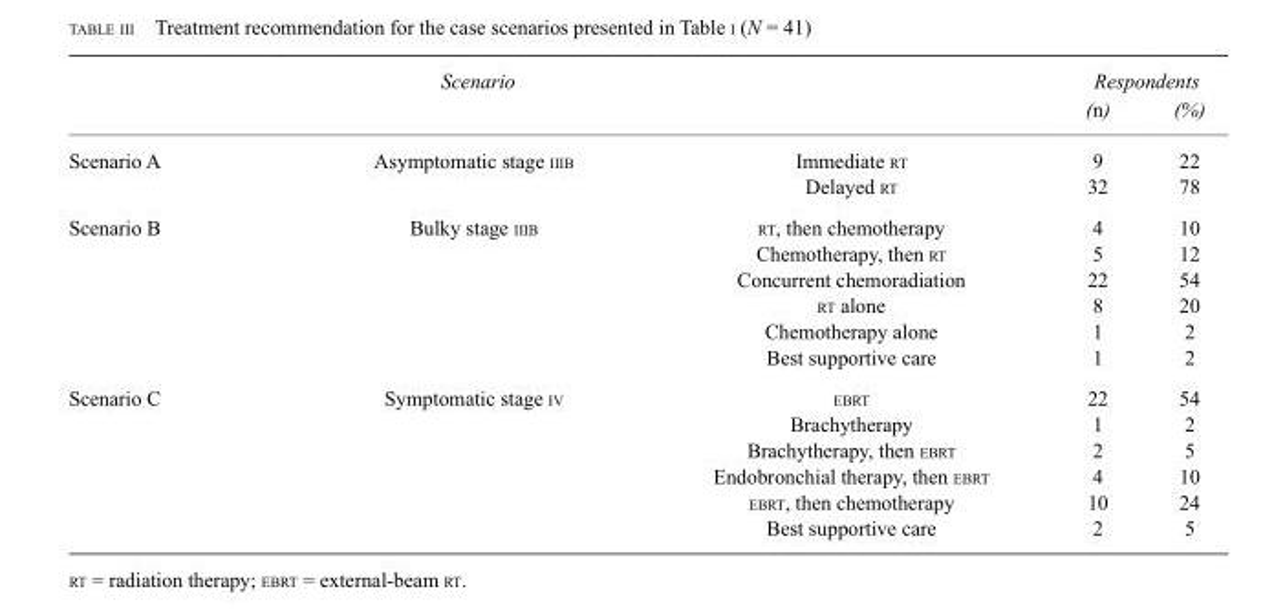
<table><thead><tr><td rowspan="2" colspan="3">Scenario</td><td colspan="2">Respondents</td></tr><tr><td rowspan="2">(n) 9</td><td rowspan="2">(%) 22</td></tr><tr><td>Scenario A</td><td>Asymptomatic stage iiib</td><td>Immediate rt</td></tr></thead><tbody><tr><td></td><td></td><td>Delayed rt</td><td>32</td><td>78</td></tr><tr><td rowspan="6">Scenario B</td><td>Bulky stage iiib</td><td>rt, then chemotherapy</td><td>4</td><td>10</td></tr><tr><td></td><td>Chemotherapy, then rt</td><td>5</td><td>12</td></tr><tr><td></td><td>Concurrent chemoradiation</td><td>22</td><td>54</td></tr><tr><td></td><td>rt alone</td><td>8</td><td>20</td></tr><tr><td></td><td>Chemotherapy alone</td><td>1</td><td>2</td></tr><tr><td></td><td>Best supportive care</td><td>1</td><td>2</td></tr><tr><td rowspan="6">Scenario C</td><td>Symptomatic stage iv</td><td>ebrt</td><td>22</td><td>54</td></tr><tr><td></td><td>Brachytherapy</td><td>1</td><td>2</td></tr><tr><td></td><td>Brachytherapy, then ebrt</td><td>2</td><td>5</td></tr><tr><td></td><td>Endobronchial therapy, then ebrt</td><td>4</td><td>10</td></tr><tr><td></td><td>ebrt, then chemotherapy</td><td>10</td><td>24</td></tr><tr><td></td><td>Best supportive care</td><td>2</td><td>5</td></tr></tbody></table>